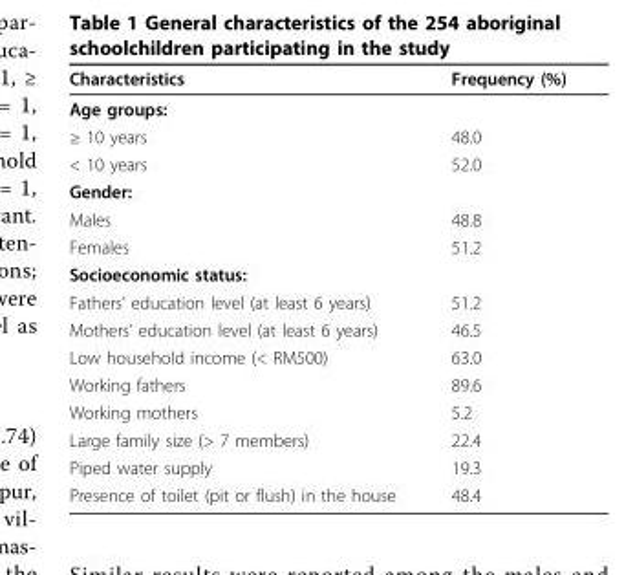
<table><thead><tr><td>Characteristics</td><td>Frequency (%)</td></tr></thead><tbody><tr><td colspan="2">Age groups:</td></tr><tr><td>≥ 10 years</td><td>48.0</td></tr><tr><td>&lt; 10 years</td><td>52.0</td></tr><tr><td colspan="2">Gender:</td></tr><tr><td>Males</td><td>48.8</td></tr><tr><td>Females</td><td>51.2</td></tr><tr><td colspan="2">Socioeconomic status:</td></tr><tr><td>Fathers’ education level (at least 6 years)</td><td>51.2</td></tr><tr><td>Mothers’ education level (at least 6 years)</td><td>46.5</td></tr><tr><td>Low household income (&lt; RM500)</td><td>63.0</td></tr><tr><td>Working fathers</td><td>89.6</td></tr><tr><td>Working mothers</td><td>5.2</td></tr><tr><td>Large family size (&gt; 7 members)</td><td>22.4</td></tr><tr><td>Piped water supply</td><td>19.3</td></tr><tr><td>Presence of toilet (pit or flush) in the house</td><td>48.4</td></tr></tbody></table>